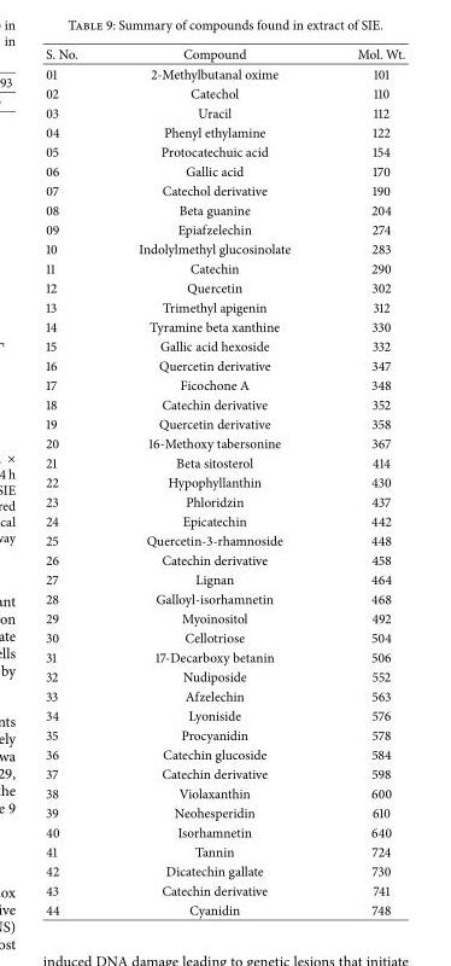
<table><thead><tr><td>S. No.</td><td>Compound</td><td>Mol. Wt.</td></tr></thead><tbody><tr><td>01</td><td>2-Methylbutanal oxime</td><td>101</td></tr><tr><td>02</td><td>Catechol</td><td>110</td></tr><tr><td>03</td><td>Uracil</td><td>112</td></tr><tr><td>04</td><td>Phenyl ethylamine</td><td>122</td></tr><tr><td>05</td><td>Protocatechuic acid</td><td>154</td></tr><tr><td>06</td><td>Gallic acid</td><td>170</td></tr><tr><td>07</td><td>Catechol derivative</td><td>190</td></tr><tr><td>08</td><td>Beta guanine</td><td>204</td></tr><tr><td>09</td><td>Epiafzelechin</td><td>274</td></tr><tr><td>10</td><td>Indolylmethyl glucosinolate</td><td>283</td></tr><tr><td>11</td><td>Catechin</td><td>290</td></tr><tr><td>12</td><td>Quercetin</td><td>302</td></tr><tr><td>13</td><td>Trimethyl apigenin</td><td>312</td></tr><tr><td>14</td><td>Tyramine beta xanthine</td><td>330</td></tr><tr><td>15</td><td>Gallic acid hexoside</td><td>332</td></tr><tr><td>16</td><td>Quercetin derivative</td><td>347</td></tr><tr><td>17</td><td>Ficochone A</td><td>348</td></tr><tr><td>18</td><td>Catechin derivative</td><td>352</td></tr><tr><td>19</td><td>Quercetin derivative</td><td>358</td></tr><tr><td>20</td><td>16-Methoxy tabersonine</td><td>367</td></tr><tr><td>21</td><td>Beta sitosterol</td><td>414</td></tr><tr><td>22</td><td>Hypophyllanthin</td><td>430</td></tr><tr><td>23</td><td>Phloridzin</td><td>437</td></tr><tr><td>24</td><td>Epicatechin</td><td>442</td></tr><tr><td>25</td><td>Quercetin-3-rhamnoside</td><td>448</td></tr><tr><td>26</td><td>Catechin derivative</td><td>458</td></tr><tr><td>27</td><td>Lignan</td><td>464</td></tr><tr><td>28</td><td>Galloyl-isorhamnetin</td><td>468</td></tr><tr><td>29</td><td>Myoinositol</td><td>492</td></tr><tr><td>30</td><td>Cellotriose</td><td>504</td></tr><tr><td>31</td><td>17-Decarboxy betanin</td><td>506</td></tr><tr><td>32</td><td>Nudiposide</td><td>552</td></tr><tr><td>33</td><td>Afzelechin</td><td>563</td></tr><tr><td>34</td><td>Lyoniside</td><td>576</td></tr><tr><td>35</td><td>Procyanidin</td><td>578</td></tr><tr><td>36</td><td>Catechin glucoside</td><td>584</td></tr><tr><td>37</td><td>Catechin derivative</td><td>598</td></tr><tr><td>38</td><td>Violaxanthin</td><td>600</td></tr><tr><td>39</td><td>Neohesperidin</td><td>610</td></tr><tr><td>40</td><td>Isorhamnetin</td><td>640</td></tr><tr><td>41</td><td>Tannin</td><td>724</td></tr><tr><td>42</td><td>Dicatechin gallate</td><td>730</td></tr><tr><td>43</td><td>Catechin derivative</td><td>741</td></tr><tr><td>44</td><td>Cyanidin</td><td>748</td></tr></tbody></table>